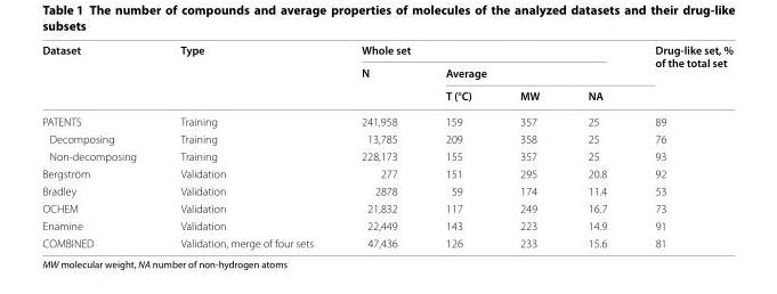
<table><thead><tr><td rowspan="3">Dataset</td><td rowspan="3">Type</td><td colspan="4">Whole set</td><td rowspan="3">Drug-like set, % of the total set</td></tr><tr><td rowspan="2">N</td><td colspan="3">Average</td></tr><tr><td>T (°C)</td><td>MW</td><td>NA</td></tr></thead><tbody><tr><td>PATENTS</td><td>Training</td><td>241,958</td><td>159</td><td>357</td><td>25</td><td>89</td></tr><tr><td>Decomposing</td><td>Training</td><td>13,785</td><td>209</td><td>358</td><td>25</td><td>76</td></tr><tr><td>Non-decomposing</td><td>Training</td><td>228,173</td><td>155</td><td>357</td><td>25</td><td>93</td></tr><tr><td>Bergström</td><td>Validation</td><td>277</td><td>151</td><td>295</td><td>20.8</td><td>92</td></tr><tr><td>Bradley</td><td>Validation</td><td>2878</td><td>59</td><td>174</td><td>11.4</td><td>53</td></tr><tr><td>OCHEM</td><td>Validation</td><td>21,832</td><td>117</td><td>249</td><td>16.7</td><td>73</td></tr><tr><td>Enamine</td><td>Validation</td><td>22,449</td><td>143</td><td>223</td><td>14.9</td><td>91</td></tr><tr><td>COMBINED</td><td>Validation, merge of four sets</td><td>47,436</td><td>126</td><td>233</td><td>15.6</td><td>81</td></tr></tbody></table>